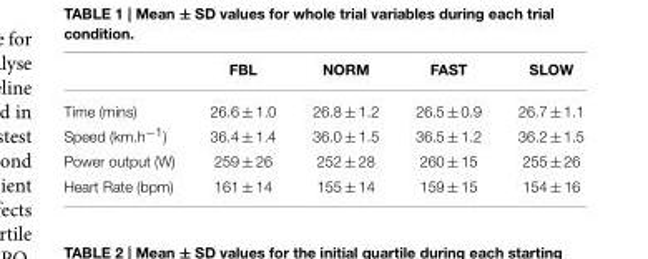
<table><thead><tr><td></td><td>FBL</td><td>NORM</td><td>FAST</td><td>SLOW</td></tr></thead><tbody><tr><td>Time (mins)</td><td>26.6 ± 1.0</td><td>26.8 ± 1.2</td><td>26.5 ± 0.9</td><td>26.7 ± 1.1</td></tr><tr><td>Speed (km.h<sup>−1</sup>)</td><td>36.4 ± 1.4</td><td>36.0 ± 1.5</td><td>36.5 ± 1.2</td><td>36.2 ± 1.5</td></tr><tr><td>Power output (W)</td><td>259 ± 26</td><td>252 ± 28</td><td>260 ± 15</td><td>255 ± 26</td></tr><tr><td>Heart Rate (bpm)</td><td>161 ± 14</td><td>155 ± 14</td><td>159 ± 15</td><td>154 ± 16</td></tr></tbody></table>